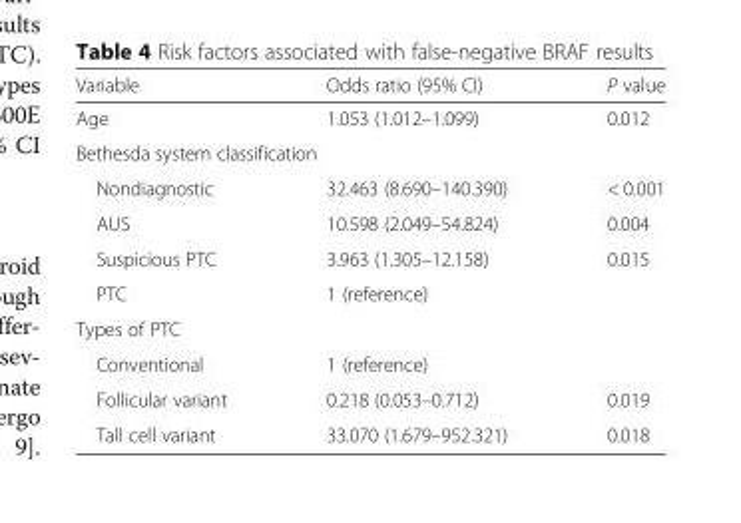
<table><thead><tr><td>Variable</td><td>Odds ratio (95% CI)</td><td>P value</td></tr></thead><tbody><tr><td>Age</td><td>1.053 (1.012–1.099)</td><td>0.012</td></tr><tr><td colspan="3">Bethesda system classification</td></tr><tr><td>Nondiagnostic</td><td>32.463 (8.690–140.390)</td><td>&lt; 0.001</td></tr><tr><td>AUS</td><td>10.598 (2.049–54.824)</td><td>0.004</td></tr><tr><td>Suspicious PTC</td><td>3.963 (1.305–12.158)</td><td>0.015</td></tr><tr><td>PTC</td><td>1 (reference)</td><td></td></tr><tr><td colspan="3">Types of PTC</td></tr><tr><td>Conventional</td><td>1 (reference)</td><td></td></tr><tr><td>Follicular variant</td><td>0.218 (0.053–0.712)</td><td>0.019</td></tr><tr><td>Tall cell variant</td><td>33.070 (1.679–952.321)</td><td>0.018</td></tr></tbody></table>